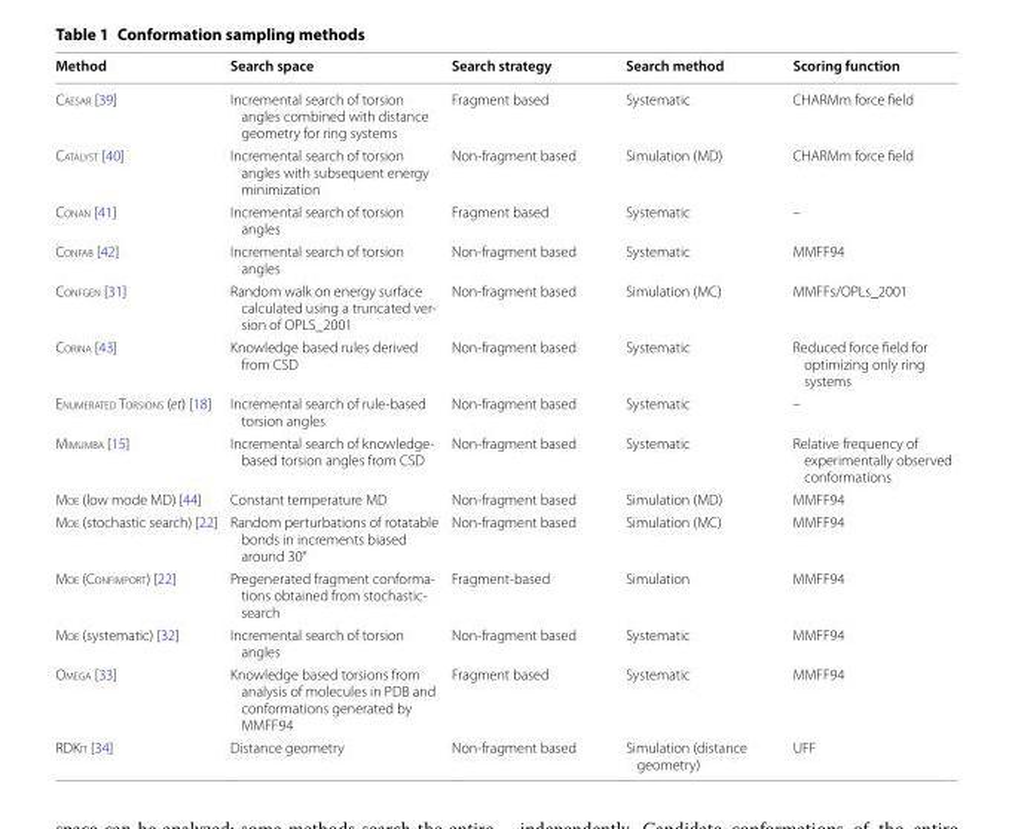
<table><thead><tr><td>Method</td><td>Search space</td><td>Search strategy</td><td>Search method</td><td>Scoring function</td></tr></thead><tbody><tr><td>Caesar [39]</td><td>Incremental search of torsion angles combined with distance geometry for ring systems</td><td>Fragment based</td><td>Systematic</td><td>CHARMm force field</td></tr><tr><td>Catalyst [40]</td><td>Incremental search of torsion angles with subsequent energy minimization</td><td>Non-fragment based</td><td>Simulation (MD)</td><td>CHARMm force field</td></tr><tr><td>Conan [41]</td><td>Incremental search of torsion angles</td><td>Fragment based</td><td>Systematic</td><td>–</td></tr><tr><td>Confab [42]</td><td>Incremental search of torsion angles</td><td>Non-fragment based</td><td>Systematic</td><td>MMFF94</td></tr><tr><td>Confgen [31]</td><td>Random walk on energy surface calculated using a truncated ver- sion of OPLS_2001</td><td>Non-fragment based</td><td>Simulation (MC)</td><td>MMFFs/OPLs_2001</td></tr><tr><td>Corina [43]</td><td>Knowledge based rules derived from CSD</td><td>Non-fragment based</td><td>Systematic</td><td>Reduced force field for optimizing only ring systems</td></tr><tr><td>Enumerated Torsions (et) [18]</td><td>Incremental search of rule-based torsion angles</td><td>Non-fragment based</td><td>Systematic</td><td>–</td></tr><tr><td>Mimumba [15]</td><td>Incremental search of knowledge- based torsion angles from CSD</td><td>Non-fragment based</td><td>Systematic</td><td>Relative frequency of experimentally observed conformations</td></tr><tr><td>Moe (low mode MD) [44]</td><td>Constant temperature MD</td><td>Non-fragment based</td><td>Simulation (MD)</td><td>MMFF94</td></tr><tr><td>Moe (stochastic search) [22]</td><td>Random perturbations of rotatable bonds in increments biased around 30°</td><td>Non-fragment based</td><td>Simulation (MC)</td><td>MMFF94</td></tr><tr><td>Moe (Confimport) [22]</td><td>Pregenerated fragment conforma- tions obtained from stochastic- search</td><td>Fragment-based</td><td>Simulation</td><td>MMFF94</td></tr><tr><td>Moe (systematic) [32]</td><td>Incremental search of torsion angles</td><td>Non-fragment based</td><td>Systematic</td><td>MMFF94</td></tr><tr><td>Omega [33]</td><td>Knowledge based torsions from analysis of molecules in PDB and conformations generated by MMFF94</td><td>Fragment based</td><td>Systematic</td><td>MMFF94</td></tr><tr><td>RDKit [34]</td><td>Distance geometry</td><td>Non-fragment based</td><td>Simulation (distance geometry)</td><td>UFF</td></tr></tbody></table>